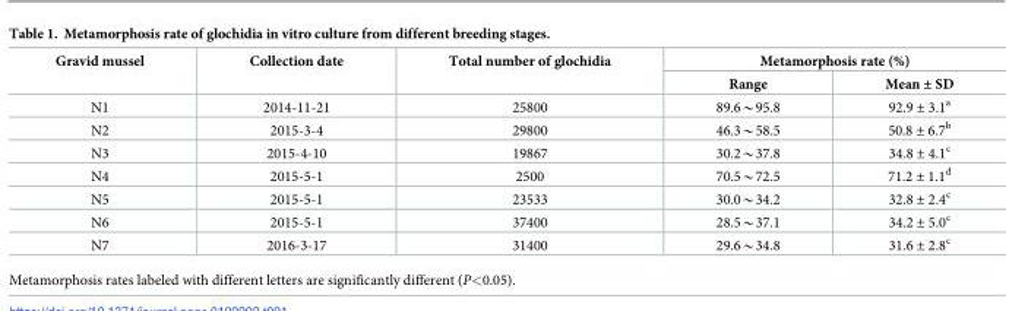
<table><thead><tr><td rowspan="2">Gravid mussel</td><td rowspan="2">Collection date</td><td rowspan="2">Total number of glochidia</td><td colspan="2">Metamorphosis rate (%)</td></tr><tr><td>Range</td><td>Mean ± SD</td></tr></thead><tbody><tr><td>N1</td><td>2014-11-21</td><td>25800</td><td>89.6*95.8</td><td>92.9 ± 3.1<sup>a</sup></td></tr><tr><td>N2</td><td>2015-3-4</td><td>29800</td><td>46.3*58.5</td><td>50.8 ± 6.7<sup>b</sup></td></tr><tr><td>N3</td><td>2015-4-10</td><td>19867</td><td>30.2*37.8</td><td>34.8 ± 4.1<sup>c</sup></td></tr><tr><td>N4</td><td>2015-5-1</td><td>2500</td><td>70.5*72.5</td><td>71.2 ± 1.1<sup>d</sup></td></tr><tr><td>N5</td><td>2015-5-1</td><td>23533</td><td>30.0*34.2</td><td>32.8 ± 2.4<sup>c</sup></td></tr><tr><td>N6</td><td>2015-5-1</td><td>37400</td><td>28.5*37.1</td><td>34.2 ± 5.0<sup>c</sup></td></tr><tr><td>N7</td><td>2016-3-17</td><td>31400</td><td>29.6*34.8</td><td>31.6 ± 2.8<sup>c</sup></td></tr></tbody></table>